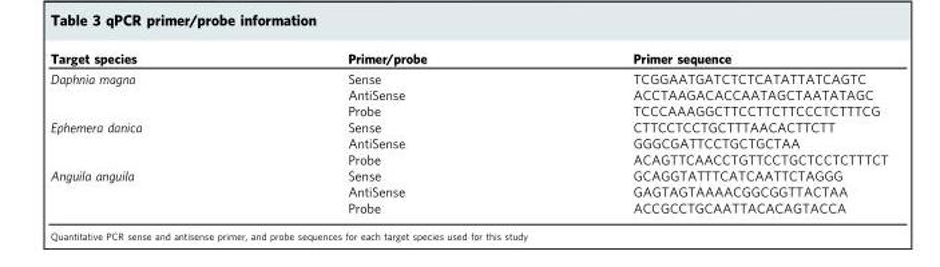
<table><thead><tr><td>Target species</td><td>Primer/probe</td><td>Primer sequence</td></tr></thead><tbody><tr><td rowspan="3">Daphnia magna</td><td>Sense</td><td>TCGGAATGATCTCTCATATTATCAGTC</td></tr><tr><td>AntiSense</td><td>ACCTAAGACACCAATAGCTAATATAGC</td></tr><tr><td>Probe</td><td>TCCCAAAGGCTTCCTTCTTCCCTCTTTCG</td></tr><tr><td rowspan="3">Ephemera danica</td><td>Sense</td><td>CTTCCTCCTGCTTTAACACTTCTT</td></tr><tr><td>AntiSense</td><td>GGGCGATTCCTGCTGCTAA</td></tr><tr><td>Probe</td><td>ACAGTTCAACCTGTTCCTGCTCCTCTTTCT</td></tr><tr><td rowspan="3">Anguila anguila</td><td>Sense</td><td>GCAGGTATTTCATCAATTCTAGGG</td></tr><tr><td>AntiSense</td><td>GAGTAGTAAAACGGCGGTTACTAA</td></tr><tr><td>Probe</td><td>ACCGCCTGCAATTACACAGTACCA</td></tr></tbody></table>